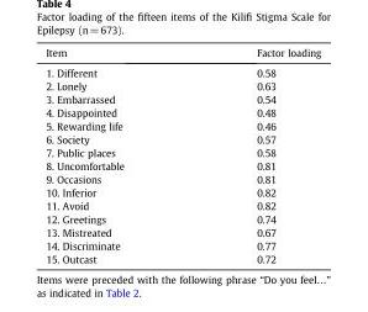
<table><thead><tr><td>Item</td><td>Factor loading</td></tr></thead><tbody><tr><td>1. Different</td><td>0.58</td></tr><tr><td>2. Lonely</td><td>0.63</td></tr><tr><td>3. Embarrassed</td><td>0.54</td></tr><tr><td>4. Disappointed</td><td>0.48</td></tr><tr><td>5. Rewarding life</td><td>0.46</td></tr><tr><td>6. Society</td><td>0.57</td></tr><tr><td>7. Public places</td><td>0.58</td></tr><tr><td>8. Uncomfortable</td><td>0.81</td></tr><tr><td>9. Occasions</td><td>0.81</td></tr><tr><td>10. Inferior</td><td>0.82</td></tr><tr><td>11. Avoid</td><td>0.82</td></tr><tr><td>12. Greetings</td><td>0.74</td></tr><tr><td>13. Mistreated</td><td>0.67</td></tr><tr><td>14. Discriminate</td><td>0.77</td></tr><tr><td>15. Outcast</td><td>0.72</td></tr></tbody></table>